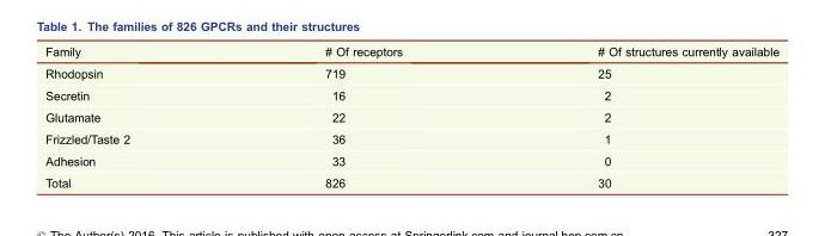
<table><thead><tr><td>Family</td><td># Of receptors</td><td># Of structures currently available</td></tr></thead><tbody><tr><td>Rhodopsin</td><td>719</td><td>25</td></tr><tr><td>Secretin</td><td>16</td><td>2</td></tr><tr><td>Glutamate</td><td>22</td><td>2</td></tr><tr><td>Frizzled/Taste 2</td><td>36</td><td>1</td></tr><tr><td>Adhesion</td><td>33</td><td>0</td></tr><tr><td>Total</td><td>826</td><td>30</td></tr></tbody></table>